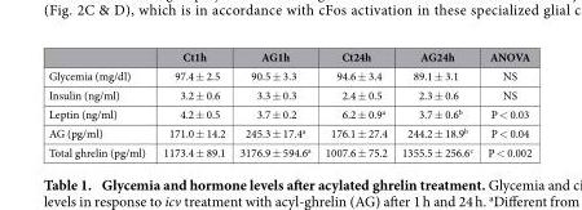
<table><thead><tr><td></td><td>Ct1h</td><td>AG1h</td><td>Ct24h</td><td>AG24h</td><td>ANOVA</td></tr></thead><tbody><tr><td>Glycemia (mg/dl)</td><td>97.4 ± 2.5</td><td>90.5 ± 3.3</td><td>94.6 ± 3.4</td><td>89.1 ± 3.1</td><td>NS</td></tr><tr><td>Insulin (ng/ml)</td><td>3.2 ± 0.6</td><td>3.3 ± 0.3</td><td>2.4 ± 0.5</td><td>2.3 ± 0.6</td><td>NS</td></tr><tr><td>Leptin (ng/ml)</td><td>4.2 ± 0.5</td><td>3.7 ± 0.2</td><td>6.2 ± 0.9<sup>a</sup></td><td>3.7 ± 0.6<sup>b</sup></td><td>P &lt; 0.03</td></tr><tr><td>AG (pg/ml)</td><td>171.0 ± 14.2</td><td>245.3 ± 17.4<sup>a</sup></td><td>176.1 ± 27.4</td><td>244.2 ± 18.9<sup>b</sup></td><td>P &lt; 0.04</td></tr><tr><td>Total ghrelin (pg/ml)</td><td>1173.4 ± 89.1</td><td>3176.9 ± 594.6<sup>a</sup></td><td>1007.6 ± 75.2</td><td>1355.5 ± 256.6<sup>c</sup></td><td>P &lt; 0.002</td></tr></tbody></table>